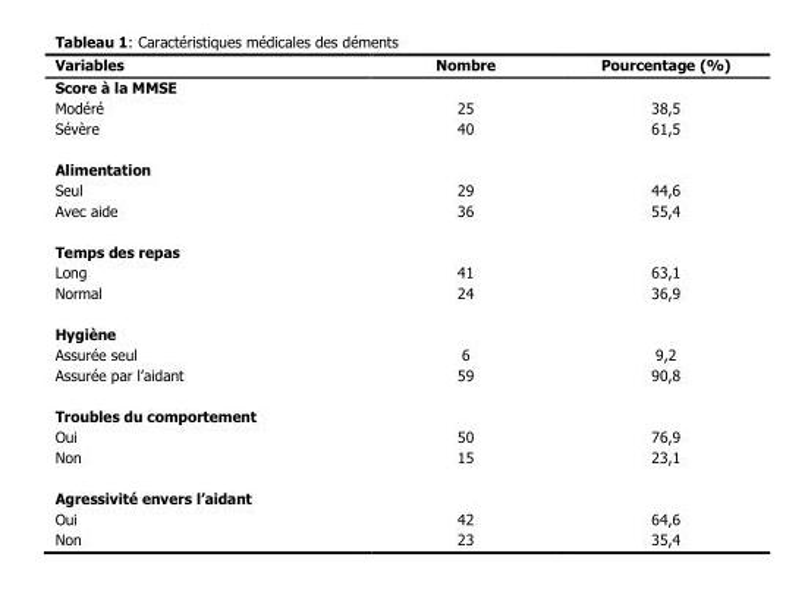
<table><thead><tr><td>Variables</td><td>Nombre</td><td>Pourcentage (%)</td></tr></thead><tbody><tr><td colspan="3">Score à la MMSE</td></tr><tr><td>Modéré</td><td>25</td><td>38,5</td></tr><tr><td>Sévère</td><td>40</td><td>61,5</td></tr><tr><td colspan="3">Alimentation</td></tr><tr><td>Seul</td><td>29</td><td>44,6</td></tr><tr><td>Avec aide</td><td>36</td><td>55,4</td></tr><tr><td colspan="3">Temps des repas</td></tr><tr><td>Long</td><td>41</td><td>63,1</td></tr><tr><td>Normal</td><td>24</td><td>36,9</td></tr><tr><td colspan="3">Hygiène</td></tr><tr><td>Assurée seul</td><td>6</td><td>9,2</td></tr><tr><td>Assurée par l’aidant</td><td>59</td><td>90,8</td></tr><tr><td colspan="3">Troubles du comportement</td></tr><tr><td>Oui</td><td>50</td><td>76,9</td></tr><tr><td>Non</td><td>15</td><td>23,1</td></tr><tr><td colspan="3">Agressivité envers l’aidant</td></tr><tr><td>Oui</td><td>42</td><td>64,6</td></tr><tr><td>Non</td><td>23</td><td>35,4</td></tr></tbody></table>